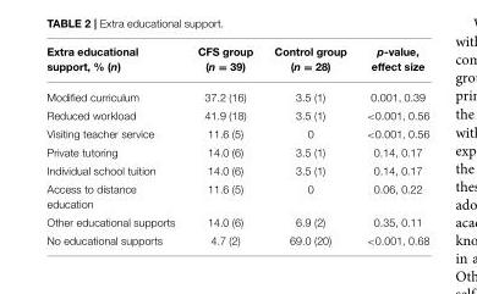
<table><thead><tr><td>Extra educational support, % (n)</td><td>CFS group (n = 39)</td><td>Control group (n = 28)</td><td>p-value, effect size</td></tr></thead><tbody><tr><td>Modified curriculum</td><td>37.2 (16)</td><td>3.5 (1)</td><td>0.001, 0.39</td></tr><tr><td>Reduced workload</td><td>41.9 (18)</td><td>3.5 (1)</td><td>&lt;0.001, 0.56</td></tr><tr><td>Visiting teacher service</td><td>11.6 (5)</td><td>0</td><td>&lt;0.001, 0.56</td></tr><tr><td>Private tutoring</td><td>14.0 (6)</td><td>3.5 (1)</td><td>0.14, 0.17</td></tr><tr><td>Individual school tuition</td><td>14.0 (6)</td><td>3.5 (1)</td><td>0.14, 0.17</td></tr><tr><td>Access to distance education</td><td>11.6 (5)</td><td>0</td><td>0.06, 0.22</td></tr><tr><td>Other educational supports</td><td>14.0 (6)</td><td>6.9 (2)</td><td>0.35, 0.11</td></tr><tr><td>No educational supports</td><td>4.7 (2)</td><td>69.0 (20)</td><td>&lt;0.001, 0.68</td></tr></tbody></table>